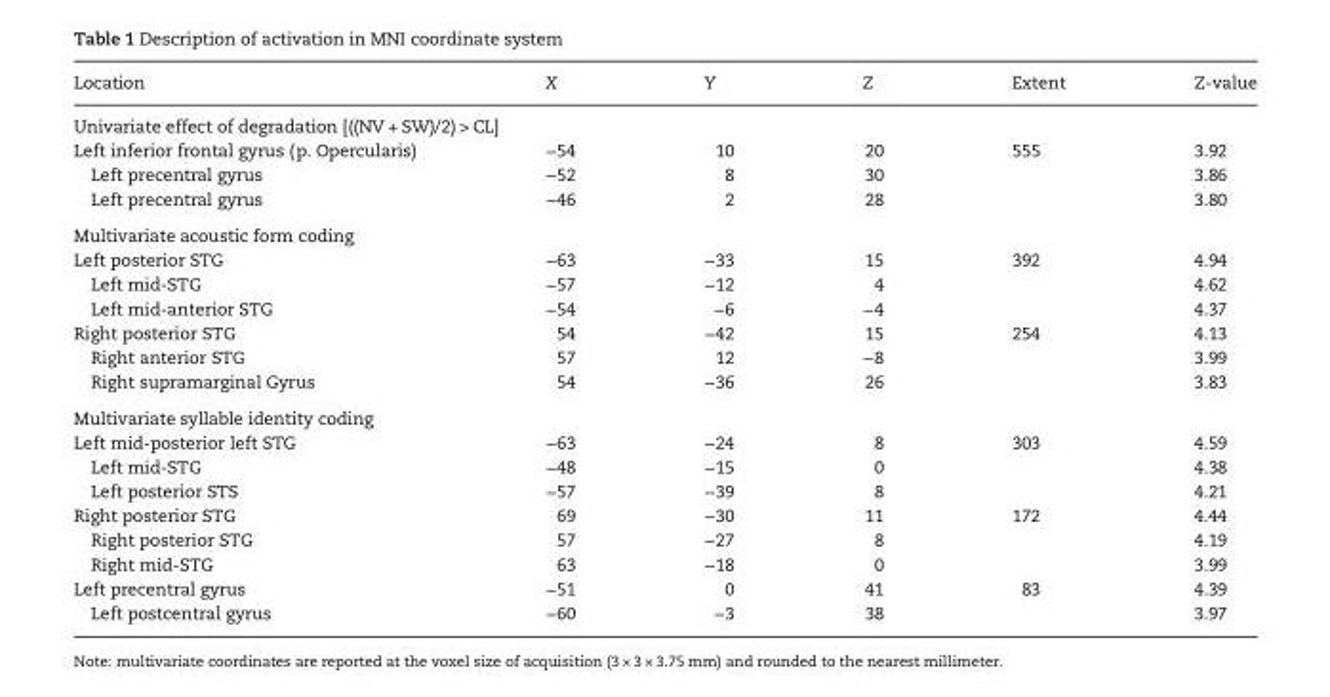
<table><thead><tr><td>Location</td><td>X</td><td>Y</td><td>Z</td><td>Extent</td><td>Z-value</td></tr></thead><tbody><tr><td colspan="6">Univariate effect of degradation [((NV + SW)/2) &gt; CL]</td></tr><tr><td>Left inferior frontal gyrus (p. Opercularis)</td><td>−54</td><td>10</td><td>20</td><td>555</td><td>3.92</td></tr><tr><td>Left precentral gyrus</td><td>−52</td><td>8</td><td>30</td><td></td><td>3.86</td></tr><tr><td>Left precentral gyrus</td><td>−46</td><td>2</td><td>28</td><td></td><td>3.80</td></tr><tr><td colspan="6">Multivariate acoustic form coding</td></tr><tr><td>Left posterior STG</td><td>−63</td><td>−33</td><td>15</td><td>392</td><td>4.94</td></tr><tr><td>Left mid-STG</td><td>−57</td><td>−12</td><td>4</td><td></td><td>4.62</td></tr><tr><td>Left mid-anterior STG</td><td>−54</td><td>−6</td><td>−4</td><td></td><td>4.37</td></tr><tr><td>Right posterior STG</td><td>54</td><td>−42</td><td>15</td><td>254</td><td>4.13</td></tr><tr><td>Right anterior STG</td><td>57</td><td>12</td><td>−8</td><td></td><td>3.99</td></tr><tr><td>Right supramarginal Gyrus</td><td>54</td><td>−36</td><td>26</td><td></td><td>3.83</td></tr><tr><td colspan="6">Multivariate syllable identity coding</td></tr><tr><td>Left mid-posterior left STG</td><td>−63</td><td>−24</td><td>8</td><td>303</td><td>4.59</td></tr><tr><td>Left mid-STG</td><td>−48</td><td>−15</td><td>0</td><td></td><td>4.38</td></tr><tr><td>Left posterior STS</td><td>−57</td><td>−39</td><td>8</td><td></td><td>4.21</td></tr><tr><td>Right posterior STG</td><td>69</td><td>−30</td><td>11</td><td>172</td><td>4.44</td></tr><tr><td>Right posterior STG</td><td>57</td><td>−27</td><td>8</td><td></td><td>4.19</td></tr><tr><td>Right mid-STG</td><td>63</td><td>−18</td><td>0</td><td></td><td>3.99</td></tr><tr><td>Left precentral gyrus</td><td>−51</td><td>0</td><td>41</td><td>83</td><td>4.39</td></tr><tr><td>Left postcentral gyrus</td><td>−60</td><td>−3</td><td>38</td><td></td><td>3.97</td></tr></tbody></table>